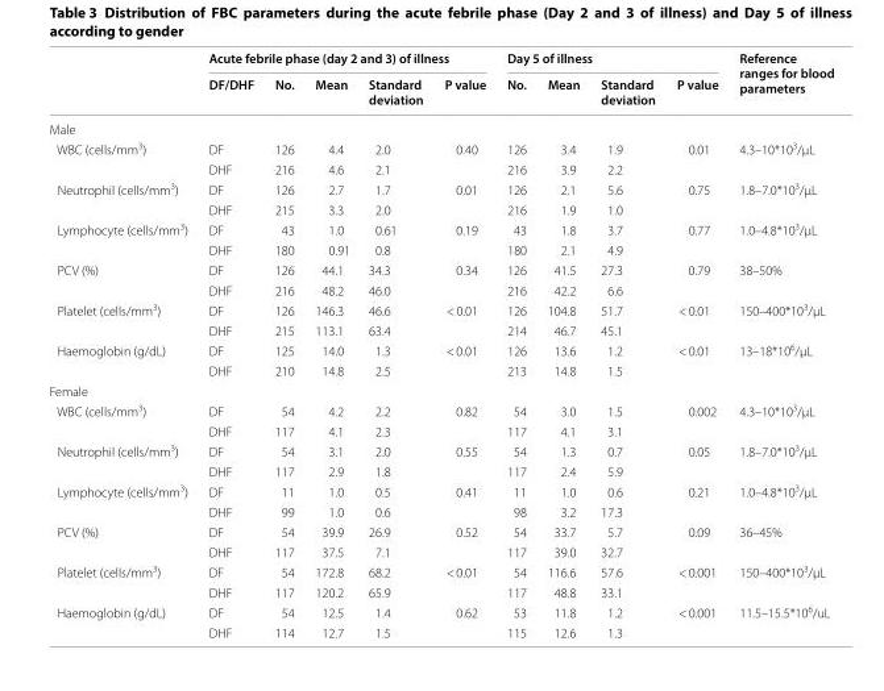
<table><thead><tr><td rowspan="2"></td><td colspan="5">Acute febrile phase (day 2 and 3) of illness</td><td colspan="4">Day 5 of illness</td><td rowspan="2">Reference ranges for blood parameters</td></tr><tr><td>DF/DHF</td><td>No.</td><td>Mean</td><td>Standard deviation</td><td>P value</td><td>No.</td><td>Mean</td><td>Standard deviation</td><td>P value</td></tr></thead><tbody><tr><td colspan="11">Male</td></tr><tr><td rowspan="2">WBC (cells/mm<sup>3</sup>)</td><td>DF</td><td>126</td><td>4.4</td><td>2.0</td><td>0.40</td><td>126</td><td>3.4</td><td>1.9</td><td>0.01</td><td>4.3–10*10<sup>3</sup>/μL</td></tr><tr><td>DHF</td><td>216</td><td>4.6</td><td>2.1</td><td></td><td>216</td><td>3.9</td><td>2.2</td><td></td><td></td></tr><tr><td rowspan="2">Neutrophil (cells/mm<sup>3</sup>)</td><td>DF</td><td>126</td><td>2.7</td><td>1.7</td><td>0.01</td><td>126</td><td>2.1</td><td>5.6</td><td>0.75</td><td>1.8–7.0*10<sup>3</sup>/μL</td></tr><tr><td>DHF</td><td>215</td><td>3.3</td><td>2.0</td><td></td><td>216</td><td>1.9</td><td>1.0</td><td></td><td></td></tr><tr><td rowspan="2">Lymphocyte (cells/mm<sup>3</sup>)</td><td>DF</td><td>43</td><td>1.0</td><td>0.61</td><td>0.19</td><td>43</td><td>1.8</td><td>3.7</td><td>0.77</td><td>1.0–4.8*10<sup>3</sup>/μL</td></tr><tr><td>DHF</td><td>180</td><td>0.91</td><td>0.8</td><td></td><td>180</td><td>2.1</td><td>4.9</td><td></td><td></td></tr><tr><td rowspan="2">PCV (%)</td><td>DF</td><td>126</td><td>44.1</td><td>34.3</td><td>0.34</td><td>126</td><td>41.5</td><td>27.3</td><td>0.79</td><td>38–50%</td></tr><tr><td>DHF</td><td>216</td><td>48.2</td><td>46.0</td><td></td><td>216</td><td>42.2</td><td>6.6</td><td></td><td></td></tr><tr><td rowspan="2">Platelet (cells/mm<sup>3</sup>)</td><td>DF</td><td>126</td><td>146.3</td><td>46.6</td><td>&lt; 0.01</td><td>126</td><td>104.8</td><td>51.7</td><td>&lt; 0.01</td><td>150–400*10<sup>3</sup>/μL</td></tr><tr><td>DHF</td><td>215</td><td>113.1</td><td>63.4</td><td></td><td>214</td><td>46.7</td><td>45.1</td><td></td><td></td></tr><tr><td rowspan="2">Haemoglobin (g/dL)</td><td>DF</td><td>125</td><td>14.0</td><td>1.3</td><td>&lt; 0.01</td><td>126</td><td>13.6</td><td>1.2</td><td>&lt; 0.01</td><td>13–18*10<sup>6</sup>/μL</td></tr><tr><td>DHF</td><td>210</td><td>14.8</td><td>2.5</td><td></td><td>213</td><td>14.8</td><td>1.5</td><td></td><td></td></tr><tr><td colspan="11">Female</td></tr><tr><td rowspan="2">WBC (cells/mm<sup>3</sup>)</td><td>DF</td><td>54</td><td>4.2</td><td>2.2</td><td>0.82</td><td>54</td><td>3.0</td><td>1.5</td><td>0.002</td><td>4.3–10*10<sup>3</sup>/μL</td></tr><tr><td>DHF</td><td>117</td><td>4.1</td><td>2.3</td><td></td><td>117</td><td>4.1</td><td>3.1</td><td></td><td></td></tr><tr><td rowspan="2">Neutrophil (cells/mm<sup>3</sup>)</td><td>DF</td><td>54</td><td>3.1</td><td>2.0</td><td>0.55</td><td>54</td><td>1.3</td><td>0.7</td><td>0.05</td><td>1.8–7.0*10<sup>3</sup>/μL</td></tr><tr><td>DHF</td><td>117</td><td>2.9</td><td>1.8</td><td></td><td>117</td><td>2.4</td><td>5.9</td><td></td><td></td></tr><tr><td rowspan="2">Lymphocyte (cells/mm<sup>3</sup>)</td><td>DF</td><td>11</td><td>1.0</td><td>0.5</td><td>0.41</td><td>11</td><td>1.0</td><td>0.6</td><td>0.21</td><td>1.0–4.8*10<sup>3</sup>/μL</td></tr><tr><td>DHF</td><td>99</td><td>1.0</td><td>0.6</td><td></td><td>98</td><td>3.2</td><td>17.3</td><td></td><td></td></tr><tr><td rowspan="2">PCV (%)</td><td>DF</td><td>54</td><td>39.9</td><td>26.9</td><td>0.52</td><td>54</td><td>33.7</td><td>5.7</td><td>0.09</td><td>36–45%</td></tr><tr><td>DHF</td><td>117</td><td>37.5</td><td>7.1</td><td></td><td>117</td><td>39.0</td><td>32.7</td><td></td><td></td></tr><tr><td rowspan="2">Platelet (cells/mm<sup>3</sup>)</td><td>DF</td><td>54</td><td>172.8</td><td>68.2</td><td>&lt; 0.01</td><td>54</td><td>116.6</td><td>57.6</td><td>&lt; 0.001</td><td>150–400*10<sup>3</sup>/μL</td></tr><tr><td>DHF</td><td>117</td><td>120.2</td><td>65.9</td><td></td><td>117</td><td>48.8</td><td>33.1</td><td></td><td></td></tr><tr><td rowspan="2">Haemoglobin (g/dL)</td><td>DF</td><td>54</td><td>12.5</td><td>1.4</td><td>0.62</td><td>53</td><td>11.8</td><td>1.2</td><td>&lt; 0.001</td><td>11.5–15.5*10<sup>6</sup>/uL</td></tr><tr><td>DHF</td><td>114</td><td>12.7</td><td>1.5</td><td></td><td>115</td><td>12.6</td><td>1.3</td><td></td><td></td></tr></tbody></table>